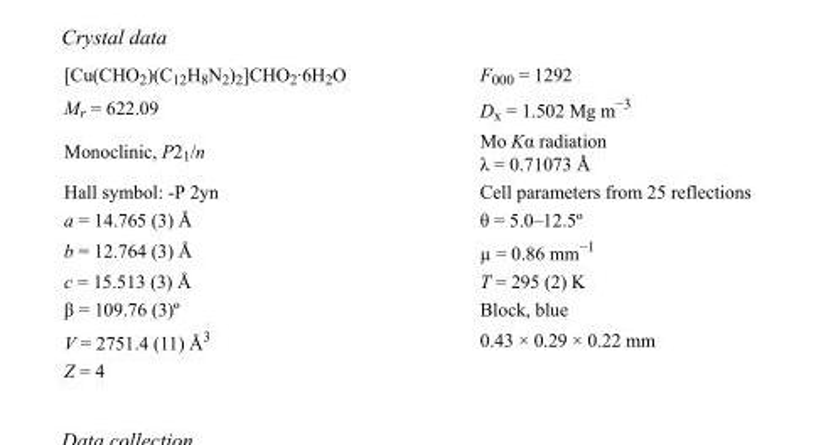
<table><tbody><tr><td>[Cu(CHO<sub>2</sub>)(C<sub>12</sub>H<sub>8</sub>N<sub>2</sub>)<sub>2</sub>]CHO<sub>2</sub>·6H<sub>2</sub>O</td><td>F<sub>000</sub> = 1292</td></tr><tr><td>M<sub>r</sub> = 622.09</td><td>D<sub>x</sub> = 1.502 Mg m<sup>−3</sup></td></tr><tr><td>Monoclinic, P2<sub>1</sub>/n</td><td>Mo Kα radiation λ = 0.71073 Å</td></tr><tr><td>Hall symbol: -P 2yn</td><td>Cell parameters from 25 reflections</td></tr><tr><td>a = 14.765 (3) Å</td><td>θ = 5.0–12.5º</td></tr><tr><td>b = 12.764 (3) Å</td><td>µ = 0.86 mm<sup>−1</sup></td></tr><tr><td>c = 15.513 (3) Å</td><td>T = 295 (2) K</td></tr><tr><td>β = 109.76 (3)º</td><td>Block, blue</td></tr><tr><td>V = 2751.4 (11) Å<sup>3</sup></td><td>0.43 × 0.29 × 0.22 mm</td></tr><tr><td>Z = 4</td><td></td></tr></tbody></table>